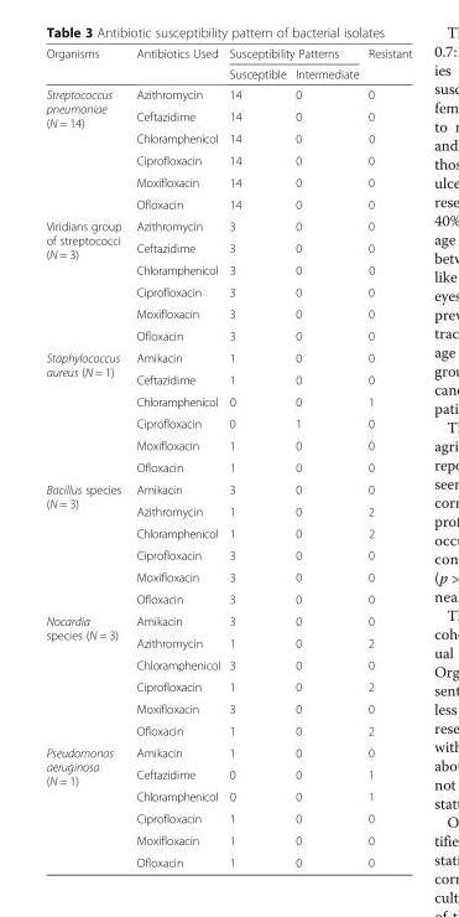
<table><thead><tr><td rowspan="2">Organisms</td><td rowspan="2">Antibiotics Used</td><td colspan="2">Susceptibility Patterns</td><td rowspan="2">Resistant</td></tr><tr><td>Susceptible</td><td>Intermediate</td></tr></thead><tbody><tr><td rowspan="6">Streptococcus pneumoniae (N = 14)</td><td>Azithromycin</td><td>14</td><td>0</td><td>0</td></tr><tr><td>Ceftazidime</td><td>14</td><td>0</td><td>0</td></tr><tr><td>Chloramphenicol</td><td>14</td><td>0</td><td>0</td></tr><tr><td>Ciprofloxacin</td><td>14</td><td>0</td><td>0</td></tr><tr><td>Moxifloxacin</td><td>14</td><td>0</td><td>0</td></tr><tr><td>Ofloxacin</td><td>14</td><td>0</td><td>0</td></tr><tr><td rowspan="6">Viridians group of streptococci (N = 3)</td><td>Azithromycin</td><td>3</td><td>0</td><td>0</td></tr><tr><td>Ceftazidime</td><td>3</td><td>0</td><td>0</td></tr><tr><td>Chloramphenicol</td><td>3</td><td>0</td><td>0</td></tr><tr><td>Ciprofloxacin</td><td>3</td><td>0</td><td>0</td></tr><tr><td>Moxifloxacin</td><td>3</td><td>0</td><td>0</td></tr><tr><td>Ofloxacin</td><td>3</td><td>0</td><td>0</td></tr><tr><td rowspan="6">Staphylococcus aureus (N = 1)</td><td>Amikacin</td><td>1</td><td>0</td><td>0</td></tr><tr><td>Ceftazidime</td><td>1</td><td>0</td><td>0</td></tr><tr><td>Chloramphenicol</td><td>0</td><td>0</td><td>1</td></tr><tr><td>Ciprofloxacin</td><td>0</td><td>1</td><td>0</td></tr><tr><td>Moxifloxacin</td><td>1</td><td>0</td><td>0</td></tr><tr><td>Ofloxacin</td><td>1</td><td>0</td><td>0</td></tr><tr><td rowspan="6">Bacillus species (N = 3)</td><td>Amikacin</td><td>3</td><td>0</td><td>0</td></tr><tr><td>Azithromycin</td><td>1</td><td>0</td><td>2</td></tr><tr><td>Chloramphenicol</td><td>1</td><td>0</td><td>2</td></tr><tr><td>Ciprofloxacin</td><td>3</td><td>0</td><td>0</td></tr><tr><td>Moxifloxacin</td><td>3</td><td>0</td><td>0</td></tr><tr><td>Ofloxacin</td><td>3</td><td>0</td><td>0</td></tr><tr><td rowspan="6">Nocardia species (N = 3)</td><td>Amikacin</td><td>3</td><td>0</td><td>0</td></tr><tr><td>Azithromycin</td><td>1</td><td>0</td><td>2</td></tr><tr><td>Chloramphenicol</td><td>3</td><td>0</td><td>0</td></tr><tr><td>Ciprofloxacin</td><td>1</td><td>0</td><td>2</td></tr><tr><td>Moxifloxacin</td><td>3</td><td>0</td><td>0</td></tr><tr><td>Ofloxacin</td><td>1</td><td>0</td><td>2</td></tr><tr><td rowspan="6">Pseudomonas aeruginosa (N = 1)</td><td>Amikacin</td><td>1</td><td>0</td><td>0</td></tr><tr><td>Ceftazidime</td><td>0</td><td>0</td><td>1</td></tr><tr><td>Chloramphenicol</td><td>0</td><td>0</td><td>1</td></tr><tr><td>Ciprofloxacin</td><td>1</td><td>0</td><td>0</td></tr><tr><td>Moxifloxacin</td><td>1</td><td>0</td><td>0</td></tr><tr><td>Ofloxacin</td><td>1</td><td>0</td><td>0</td></tr></tbody></table>